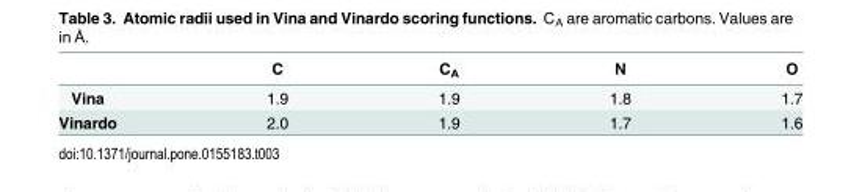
<table><thead><tr><td></td><td>C</td><td>C<sub>A</sub></td><td>N</td><td>O</td></tr></thead><tbody><tr><td>Vina</td><td>1.9</td><td>1.9</td><td>1.8</td><td>1.7</td></tr><tr><td>Vinardo</td><td>2.0</td><td>1.9</td><td>1.7</td><td>1.6</td></tr></tbody></table>